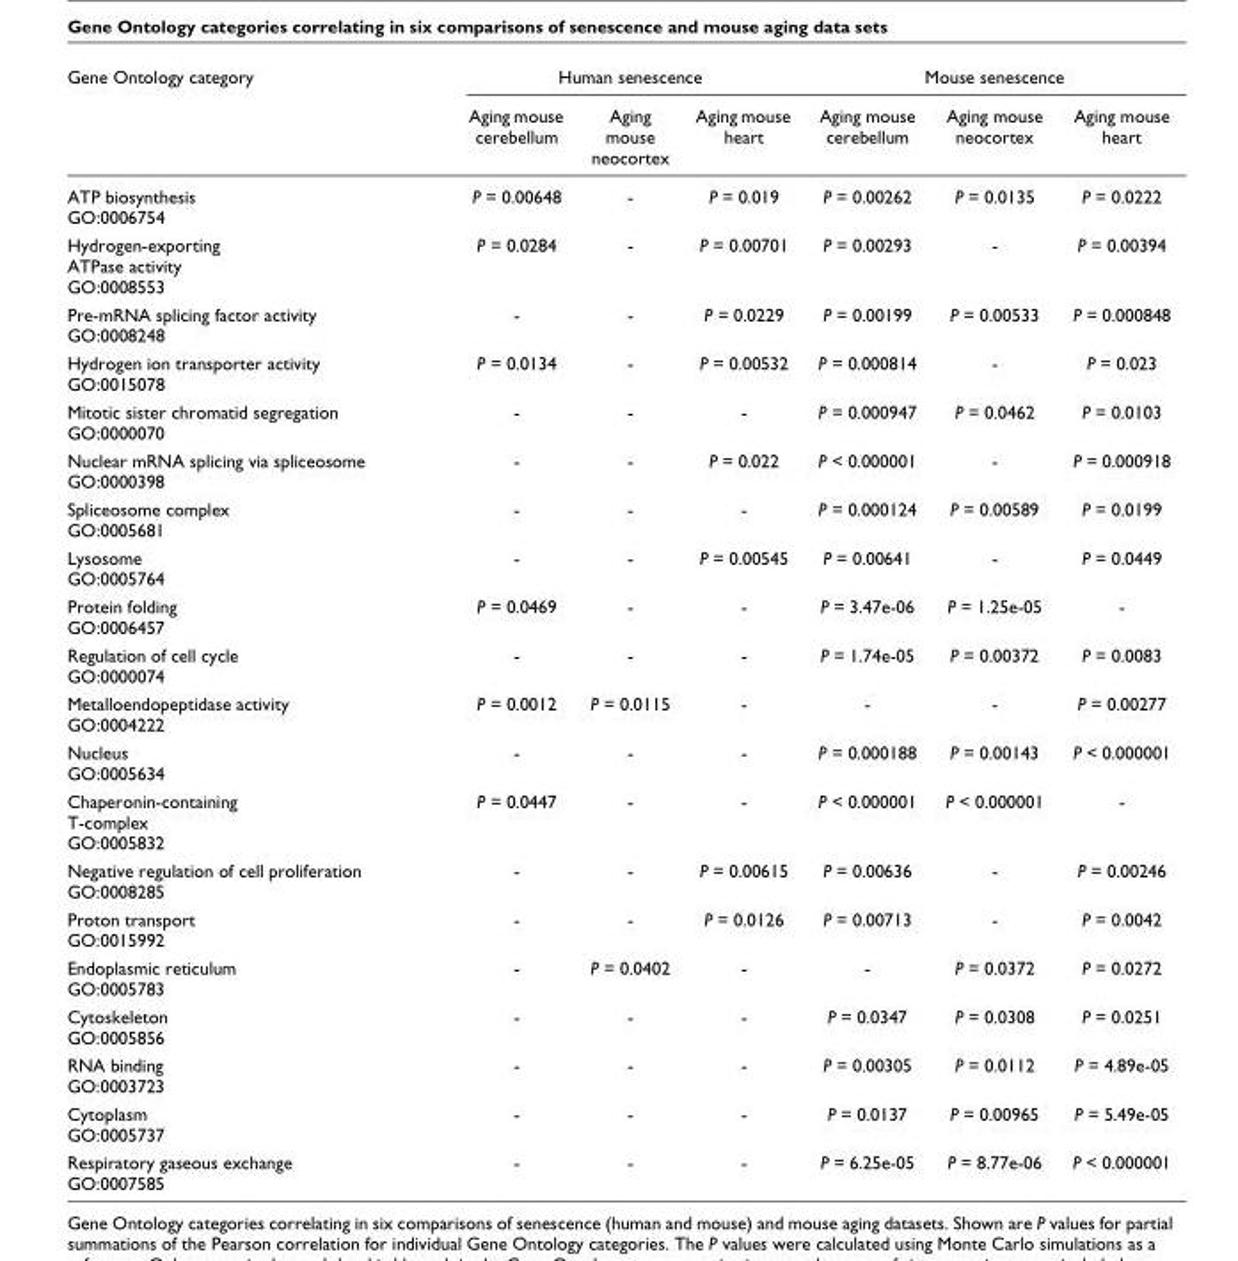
<table><thead><tr><td rowspan="2">Gene Ontology category</td><td colspan="3">Human senescence</td><td colspan="3">Mouse senescence</td></tr><tr><td>Aging mouse cerebellum</td><td>Aging mouse neocortex</td><td>Aging mouse heart</td><td>Aging mouse cerebellum</td><td>Aging mouse neocortex</td><td>Aging mouse heart</td></tr></thead><tbody><tr><td>ATP biosynthesis GO:0006754</td><td>P = 0.00648</td><td>-</td><td>P = 0.019</td><td>P = 0.00262</td><td>P = 0.0135</td><td>P = 0.0222</td></tr><tr><td>Hydrogen-exporting ATPase activity GO:0008553</td><td>P = 0.0284</td><td>-</td><td>P = 0.00701</td><td>P = 0.00293</td><td>-</td><td>P = 0.00394</td></tr><tr><td>Pre-mRNA splicing factor activity GO:0008248</td><td>-</td><td>-</td><td>P = 0.0229</td><td>P = 0.00199</td><td>P = 0.00533</td><td>P = 0.000848</td></tr><tr><td>Hydrogen ion transporter activity GO:0015078</td><td>P = 0.0134</td><td>-</td><td>P = 0.00532</td><td>P = 0.000814</td><td>-</td><td>P = 0.023</td></tr><tr><td>Mitotic sister chromatid segregation GO:0000070</td><td>-</td><td>-</td><td>-</td><td>P = 0.000947</td><td>P = 0.0462</td><td>P = 0.0103</td></tr><tr><td>Nuclear mRNA splicing via spliceosome GO:0000398</td><td>-</td><td>-</td><td>P = 0.022</td><td>P &lt; 0.000001</td><td>-</td><td>P = 0.000918</td></tr><tr><td>Spliceosome complex GO:0005681</td><td>-</td><td>-</td><td>-</td><td>P = 0.000124</td><td>P = 0.00589</td><td>P = 0.0199</td></tr><tr><td>Lysosome GO:0005764</td><td>-</td><td>-</td><td>P = 0.00545</td><td>P = 0.00641</td><td>-</td><td>P = 0.0449</td></tr><tr><td>Protein folding GO:0006457</td><td>P = 0.0469</td><td>-</td><td>-</td><td>P = 3.47e-06</td><td>P = 1.25e-05</td><td>-</td></tr><tr><td>Regulation of cell cycle GO:0000074</td><td>-</td><td>-</td><td>-</td><td>P = 1.74e-05</td><td>P = 0.00372</td><td>P = 0.0083</td></tr><tr><td>Metalloendopeptidase activity GO:0004222</td><td>P = 0.0012</td><td>P = 0.0115</td><td>-</td><td>-</td><td>-</td><td>P = 0.00277</td></tr><tr><td>Nucleus GO:0005634</td><td>-</td><td>-</td><td>-</td><td>P = 0.000188</td><td>P = 0.00143</td><td>P &lt; 0.000001</td></tr><tr><td>Chaperonin-containing T-complex GO:0005832</td><td>P = 0.0447</td><td>-</td><td>-</td><td>P &lt; 0.000001</td><td>P &lt; 0.000001</td><td>-</td></tr><tr><td>Negative regulation of cell proliferation GO:0008285</td><td>-</td><td>-</td><td>P = 0.00615</td><td>P = 0.00636</td><td>-</td><td>P = 0.00246</td></tr><tr><td>Proton transport GO:0015992</td><td>-</td><td>-</td><td>P = 0.0126</td><td>P = 0.00713</td><td>-</td><td>P = 0.0042</td></tr><tr><td>Endoplasmic reticulum GO:0005783</td><td>-</td><td>P = 0.0402</td><td>-</td><td>-</td><td>P = 0.0372</td><td>P = 0.0272</td></tr><tr><td>Cytoskeleton GO:0005856</td><td>-</td><td>-</td><td>-</td><td>P = 0.0347</td><td>P = 0.0308</td><td>P = 0.0251</td></tr><tr><td>RNA binding GO:0003723</td><td>-</td><td>-</td><td>-</td><td>P = 0.00305</td><td>P = 0.0112</td><td>P = 4.89e-05</td></tr><tr><td>Cytoplasm GO:0005737</td><td>-</td><td>-</td><td>-</td><td>P = 0.0137</td><td>P = 0.00965</td><td>P = 5.49e-05</td></tr><tr><td>Respiratory gaseous exchange GO:0007585</td><td>-</td><td>-</td><td>-</td><td>P = 6.25e-05</td><td>P = 8.77e-06</td><td>P &lt; 0.000001</td></tr></tbody></table>